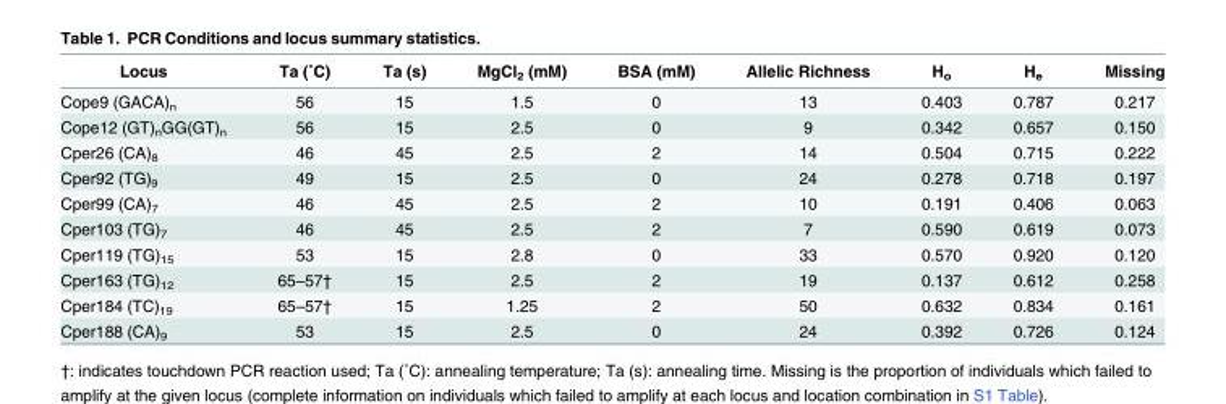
<table><thead><tr><td>Locus</td><td>Ta (˚C)</td><td>Ta (s)</td><td>MgCl<sub>2</sub> (mM)</td><td>BSA (mM)</td><td>Allelic Richness</td><td>H<sub>o</sub></td><td>H<sub>e</sub></td><td>Missing</td></tr></thead><tbody><tr><td>Cope9 (GACA)<sub>n</sub></td><td>56</td><td>15</td><td>1.5</td><td>0</td><td>13</td><td>0.403</td><td>0.787</td><td>0.217</td></tr><tr><td>Cope12 (GT)<sub>n</sub>GG(GT)<sub>n</sub></td><td>56</td><td>15</td><td>2.5</td><td>0</td><td>9</td><td>0.342</td><td>0.657</td><td>0.150</td></tr><tr><td>Cper26 (CA)<sub>8</sub></td><td>46</td><td>45</td><td>2.5</td><td>2</td><td>14</td><td>0.504</td><td>0.715</td><td>0.222</td></tr><tr><td>Cper92 (TG)<sub>9</sub></td><td>49</td><td>15</td><td>2.5</td><td>0</td><td>24</td><td>0.278</td><td>0.718</td><td>0.197</td></tr><tr><td>Cper99 (CA)<sub>7</sub></td><td>46</td><td>45</td><td>2.5</td><td>2</td><td>10</td><td>0.191</td><td>0.406</td><td>0.063</td></tr><tr><td>Cper103 (TG)<sub>7</sub></td><td>46</td><td>45</td><td>2.5</td><td>2</td><td>7</td><td>0.590</td><td>0.619</td><td>0.073</td></tr><tr><td>Cper119 (TG)<sub>15</sub></td><td>53</td><td>15</td><td>2.8</td><td>0</td><td>33</td><td>0.570</td><td>0.920</td><td>0.120</td></tr><tr><td>Cper163 (TG)<sub>12</sub></td><td>65–57†</td><td>15</td><td>2.5</td><td>2</td><td>19</td><td>0.137</td><td>0.612</td><td>0.258</td></tr><tr><td>Cper184 (TC)<sub>19</sub></td><td>65–57†</td><td>15</td><td>1.25</td><td>2</td><td>50</td><td>0.632</td><td>0.834</td><td>0.161</td></tr><tr><td>Cper188 (CA)<sub>9</sub></td><td>53</td><td>15</td><td>2.5</td><td>0</td><td>24</td><td>0.392</td><td>0.726</td><td>0.124</td></tr></tbody></table>